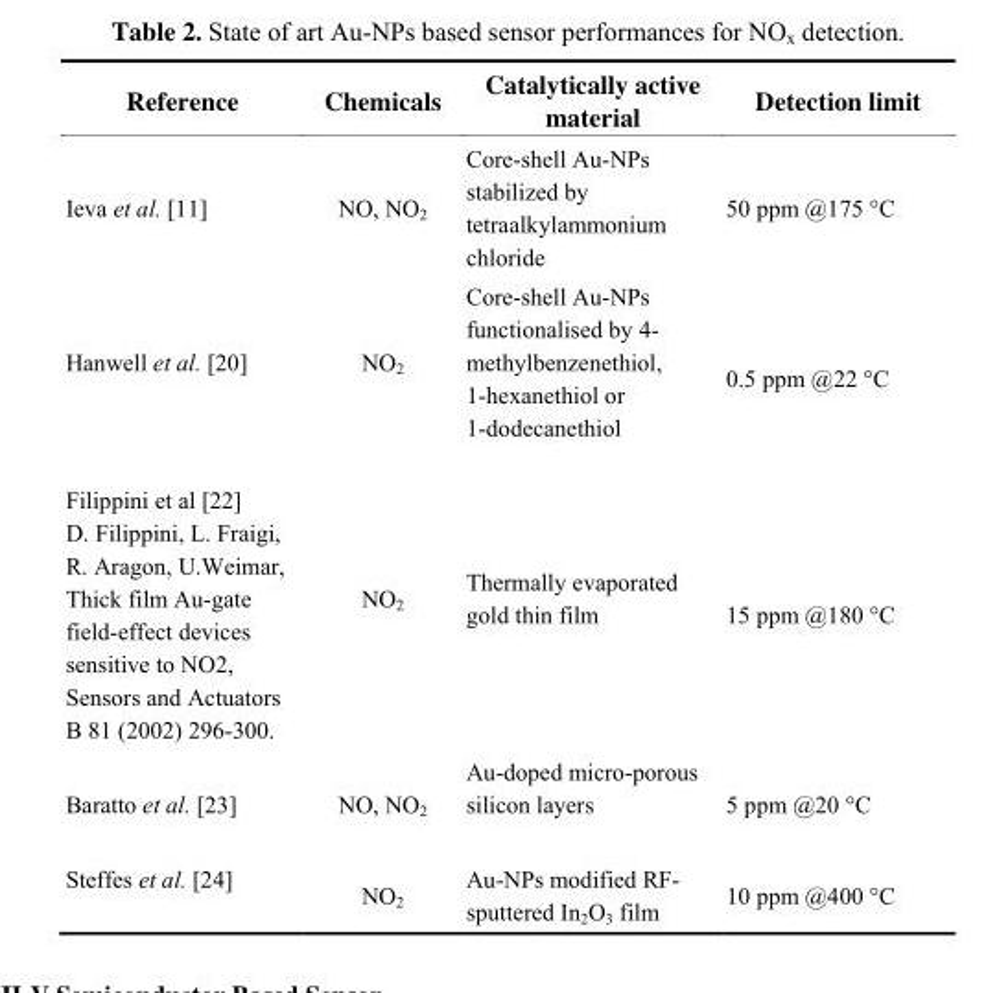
<table><thead><tr><td>Reference</td><td>Chemicals</td><td>Catalytically active material</td><td>Detection limit</td></tr></thead><tbody><tr><td>Ieva et al. [11]</td><td>NO, NO<sub>2</sub></td><td>Core-shell Au-NPs stabilized by tetraalkylammonium chloride</td><td>50 ppm @175 °C</td></tr><tr><td>Hanwell et al. [20]</td><td>NO<sub>2</sub></td><td>Core-shell Au-NPs functionalised by 4- methylbenzenethiol, 1-hexanethiol or 1-dodecanethiol</td><td>0.5 ppm @22 °C</td></tr><tr><td>Filippini et al [22] D. Filippini, L. Fraigi, R. Aragon, U.Weimar, Thick film Au-gate field-effect devices sensitive to NO2, Sensors and Actuators B 81 (2002) 296-300.</td><td>NO<sub>2</sub></td><td>Thermally evaporated gold thin film</td><td>15 ppm @180 °C</td></tr><tr><td>Baratto et al. [23]</td><td>NO, NO<sub>2</sub></td><td>Au-doped micro-porous silicon layers</td><td>5 ppm @20 °C</td></tr><tr><td>Steffes et al. [24]</td><td>NO<sub>2</sub></td><td>Au-NPs modified RF- sputtered In<sub>2</sub>O<sub>3</sub> film</td><td>10 ppm @400 °C</td></tr></tbody></table>